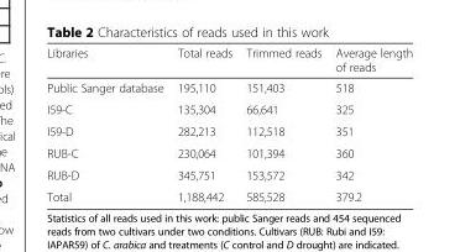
<table><thead><tr><td>Libraries</td><td>Total reads</td><td>Trimmed reads</td><td>Average length of reads</td></tr></thead><tbody><tr><td>Public Sanger database</td><td>195,110</td><td>151,403</td><td>518</td></tr><tr><td>I59-C</td><td>135,304</td><td>66,641</td><td>325</td></tr><tr><td>I59-D</td><td>282,213</td><td>112,518</td><td>351</td></tr><tr><td>RUB-C</td><td>230,064</td><td>101,394</td><td>360</td></tr><tr><td>RUB-D</td><td>345,751</td><td>153,572</td><td>342</td></tr><tr><td>Total</td><td>1,188,442</td><td>585,528</td><td>379.2</td></tr></tbody></table>